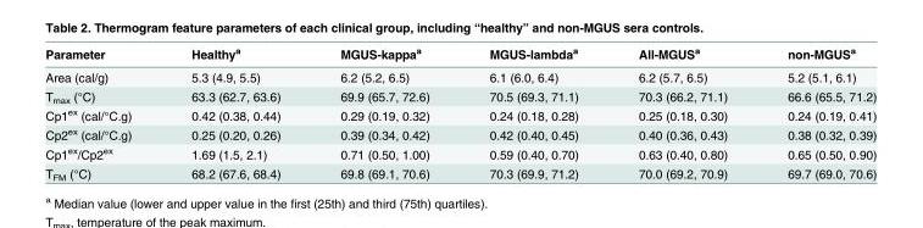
<table><thead><tr><td>Parameter</td><td>Healthy<sup>a</sup></td><td>MGUS-kappa<sup>a</sup></td><td>MGUS-lambda<sup>a</sup></td><td>All-MGUS<sup>a</sup></td><td>non-MGUS<sup>a</sup></td></tr></thead><tbody><tr><td>Area (cal/g)</td><td>5.3 (4.9, 5.5)</td><td>6.2 (5.2, 6.5)</td><td>6.1 (6.0, 6.4)</td><td>6.2 (5.7, 6.5)</td><td>5.2 (5.1, 6.1)</td></tr><tr><td>T<sub>max</sub> (°C)</td><td>63.3 (62.7, 63.6)</td><td>69.9 (65.7, 72.6)</td><td>70.5 (69.3, 71.1)</td><td>70.3 (66.2, 71.1)</td><td>66.6 (65.5, 71.2)</td></tr><tr><td>Cp1<sup>ex</sup> (cal/°C.g)</td><td>0.42 (0.38, 0.44)</td><td>0.29 (0.19, 0.32)</td><td>0.24 (0.18, 0.28)</td><td>0.25 (0.18, 0.30)</td><td>0.24 (0.19, 0.41)</td></tr><tr><td>Cp2<sup>ex</sup> (cal/°C.g)</td><td>0.25 (0.20, 0.26)</td><td>0.39 (0.34, 0.42)</td><td>0.42 (0.40, 0.45)</td><td>0.40 (0.36, 0.43)</td><td>0.38 (0.32, 0.39)</td></tr><tr><td>Cp1<sup>ex</sup>/Cp2<sup>ex</sup></td><td>1.69 (1.5, 2.1)</td><td>0.71 (0.50, 1.00)</td><td>0.59 (0.40, 0.70)</td><td>0.63 (0.40, 0.80)</td><td>0.65 (0.50, 0.90)</td></tr><tr><td>T<sub>FM</sub> (°C)</td><td>68.2 (67.6, 68.4)</td><td>69.8 (69.1, 70.6)</td><td>70.3 (69.9, 71.2)</td><td>70.0 (69.2, 70.9)</td><td>69.7 (69.0, 70.6)</td></tr></tbody></table>